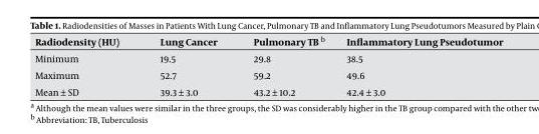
<table><thead><tr><td>Radiodensity (HU)</td><td>Lung Cancer</td><td>Pulmonary TB b</td><td>Inflammatory Lung Pseudotumor</td></tr></thead><tbody><tr><td>Minimum</td><td>19.5</td><td>29.8</td><td>38.5</td></tr><tr><td>Maximum</td><td>52.7</td><td>59.2</td><td>49.6</td></tr><tr><td>Mean ± SD</td><td>39.3 ± 3.0</td><td>43.2 ± 10.2</td><td>42.4 ± 3.0</td></tr></tbody></table>